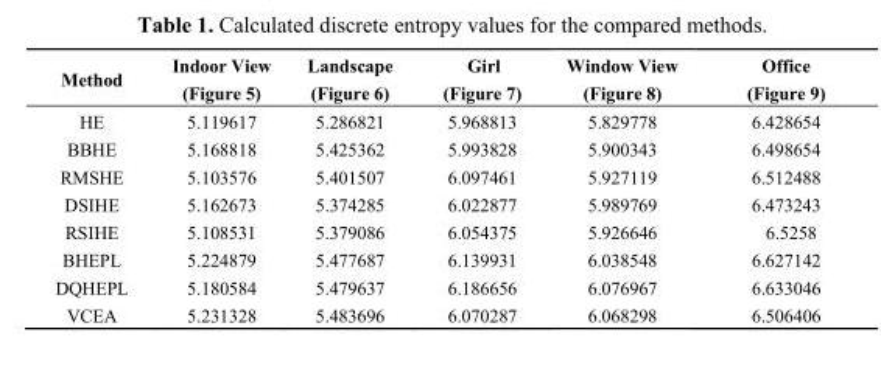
<table><thead><tr><td>Method</td><td>Indoor View (Figure 5)</td><td>Landscape (Figure 6)</td><td>Girl (Figure 7)</td><td>Window View (Figure 8)</td><td>Office (Figure 9)</td></tr></thead><tbody><tr><td>HE</td><td>5.119617</td><td>5.286821</td><td>5.968813</td><td>5.829778</td><td>6.428654</td></tr><tr><td>BBHE</td><td>5.168818</td><td>5.425362</td><td>5.993828</td><td>5.900343</td><td>6.498654</td></tr><tr><td>RMSHE</td><td>5.103576</td><td>5.401507</td><td>6.097461</td><td>5.927119</td><td>6.512488</td></tr><tr><td>DSIHE</td><td>5.162673</td><td>5.374285</td><td>6.022877</td><td>5.989769</td><td>6.473243</td></tr><tr><td>RSIHE</td><td>5.108531</td><td>5.379086</td><td>6.054375</td><td>5.926646</td><td>6.5258</td></tr><tr><td>BHEPL</td><td>5.224879</td><td>5.477687</td><td>6.139931</td><td>6.038548</td><td>6.627142</td></tr><tr><td>DQHEPL</td><td>5.180584</td><td>5.479637</td><td>6.186656</td><td>6.076967</td><td>6.633046</td></tr><tr><td>VCEA</td><td>5.231328</td><td>5.483696</td><td>6.070287</td><td>6.068298</td><td>6.506406</td></tr></tbody></table>